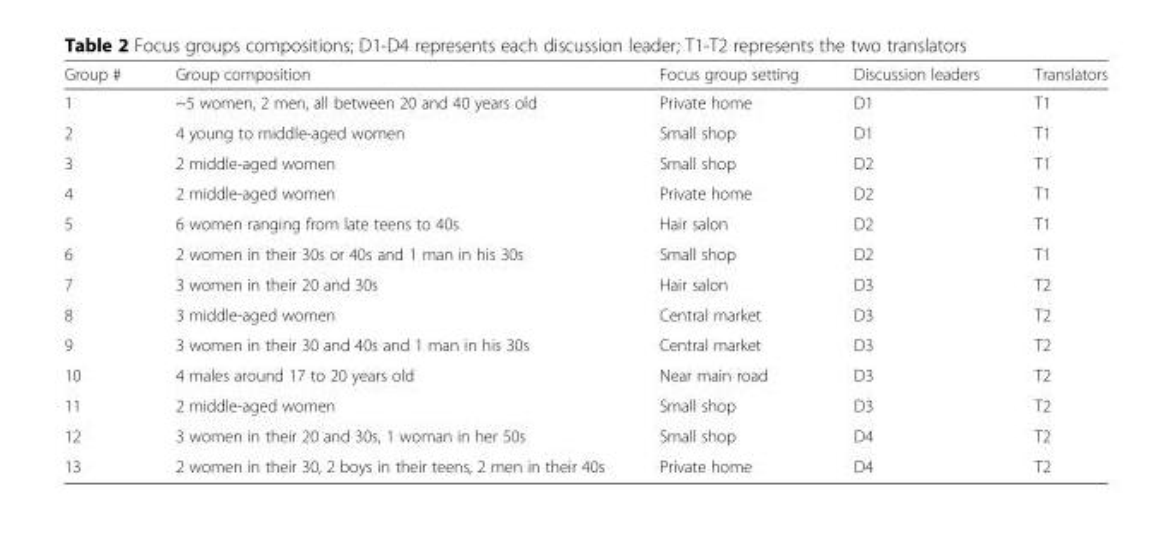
<table><thead><tr><td>Group #</td><td>Group composition</td><td>Focus group setting</td><td>Discussion leaders</td><td>Translators</td></tr></thead><tbody><tr><td>1</td><td>~5 women, 2 men, all between 20 and 40 years old</td><td>Private home</td><td>D1</td><td>T1</td></tr><tr><td>2</td><td>4 young to middle-aged women</td><td>Small shop</td><td>D1</td><td>T1</td></tr><tr><td>3</td><td>2 middle-aged women</td><td>Small shop</td><td>D2</td><td>T1</td></tr><tr><td>4</td><td>2 middle-aged women</td><td>Private home</td><td>D2</td><td>T1</td></tr><tr><td>5</td><td>6 women ranging from late teens to 40s</td><td>Hair salon</td><td>D2</td><td>T1</td></tr><tr><td>6</td><td>2 women in their 30s or 40s and 1 man in his 30s</td><td>Small shop</td><td>D2</td><td>T1</td></tr><tr><td>7</td><td>3 women in their 20 and 30s</td><td>Hair salon</td><td>D3</td><td>T2</td></tr><tr><td>8</td><td>3 middle-aged women</td><td>Central market</td><td>D3</td><td>T2</td></tr><tr><td>9</td><td>3 women in their 30 and 40s and 1 man in his 30s</td><td>Central market</td><td>D3</td><td>T2</td></tr><tr><td>10</td><td>4 males around 17 to 20 years old</td><td>Near main road</td><td>D3</td><td>T2</td></tr><tr><td>11</td><td>2 middle-aged women</td><td>Small shop</td><td>D3</td><td>T2</td></tr><tr><td>12</td><td>3 women in their 20 and 30s, 1 woman in her 50s</td><td>Small shop</td><td>D4</td><td>T2</td></tr><tr><td>13</td><td>2 women in their 30, 2 boys in their teens, 2 men in their 40s</td><td>Private home</td><td>D4</td><td>T2</td></tr></tbody></table>